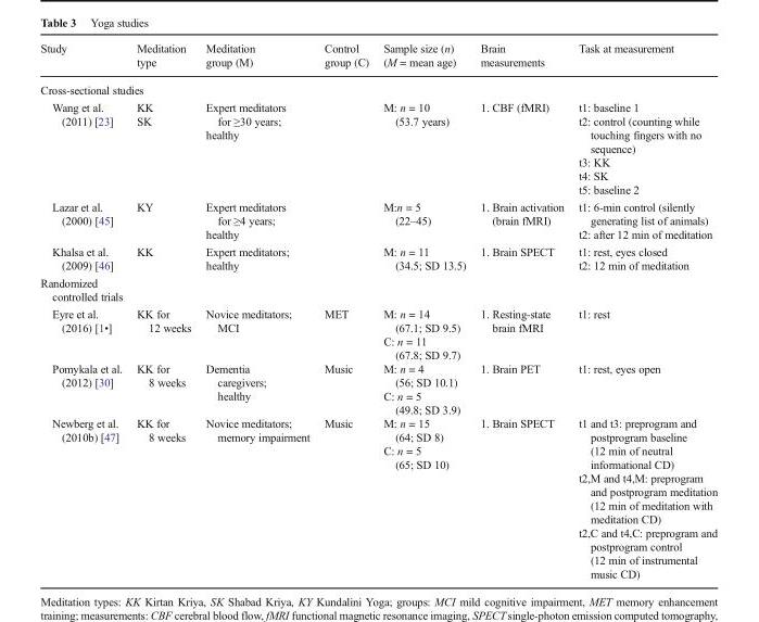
<table><thead><tr><td>Study</td><td>Meditation type</td><td>Meditation group (M)</td><td>Control group (C)</td><td>Sample size (n) (M = mean age)</td><td>Brain measurements</td><td>Task at measurement</td></tr></thead><tbody><tr><td colspan="7">Cross-sectional studies</td></tr><tr><td>Wang et al. (2011) [23]</td><td>KK SK</td><td>Expert meditators for ≥30 years; healthy</td><td></td><td>M: n = 10 (53.7 years)</td><td>1. CBF (fMRI)</td><td>t1: baseline 1 t2: control (counting while touching fingers with no sequence) t3: KK t4: SK t5: baseline 2</td></tr><tr><td>Lazar et al. (2000) [45]</td><td>KY</td><td>Expert meditators for ≥4 years; healthy</td><td></td><td>M:n = 5 (22–45)</td><td>1. Brain activation (brain fMRI)</td><td>t1: 6-min control (silently generating list of animals) t2: after 12 min of meditation</td></tr><tr><td>Khalsa et al. (2009) [46]</td><td>KK</td><td>Expert meditators; healthy</td><td></td><td>M: n = 11 (34.5; SD 13.5)</td><td>1. Brain SPECT</td><td>t1: rest, eyes closed t2: 12 min of meditation</td></tr><tr><td colspan="7">Randomized controlled trials</td></tr><tr><td>Eyre et al. (2016) [1•]</td><td>KK for 12 weeks</td><td>Novice meditators; MCI</td><td>MET</td><td>M: n = 14 (67.1; SD 9.5) C: n = 11 (67.8; SD 9.7)</td><td>1. Resting-state brain fMRI</td><td>t1: rest</td></tr><tr><td>Pomykala et al. (2012) [30]</td><td>KK for 8 weeks</td><td>Dementia caregivers; healthy</td><td>Music</td><td>M: n = 4 (56; SD 10.1) C: n = 5 (49.8; SD 3.9)</td><td>1. Brain PET</td><td>t1: rest, eyes open</td></tr><tr><td>Newberg et al. (2010b) [47]</td><td>KK for 8 weeks</td><td>Novice meditators; memory impairment</td><td>Music</td><td>M: n = 15 (64; SD 8) C: n = 5 (65; SD 10)</td><td>1. Brain SPECT</td><td>t1 and t3: preprogram and postprogram baseline (12 min of neutral informational CD) t2,M and t4,M: preprogram and postprogram meditation (12 min of meditation with meditation CD) t2,C and t4,C: preprogram and postprogram control (12 min of instrumental music CD)</td></tr></tbody></table>